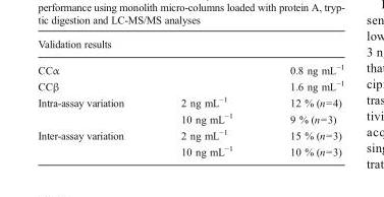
<table><thead><tr><td colspan="3">Validation results</td></tr><tr><td>CCα</td><td></td><td>0.8 ng mL<sup>−1</sup></td></tr></thead><tbody><tr><td>CCβ</td><td></td><td>1.6 ng mL<sup>−1</sup></td></tr><tr><td rowspan="2">Intra-assay variation</td><td>2 ng mL<sup>−1</sup></td><td>12 % (n=4)</td></tr><tr><td>10 ng mL<sup>−1</sup></td><td>9 % (n=3)</td></tr><tr><td rowspan="2">Inter-assay variation</td><td>2 ng mL<sup>−1</sup></td><td>15 % (n=3)</td></tr><tr><td>10 ng mL<sup>−1</sup></td><td>10 % (n=3)</td></tr></tbody></table>